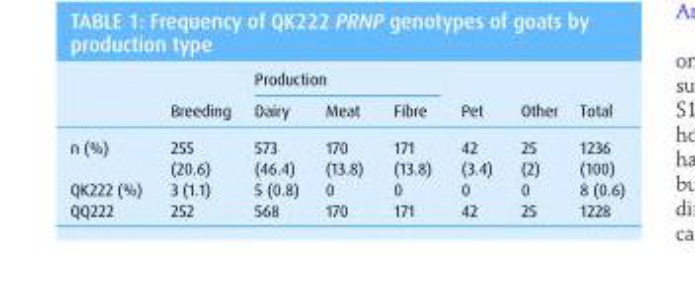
<table><thead><tr><td rowspan="2"></td><td rowspan="2">Breeding</td><td colspan="3">Production</td><td rowspan="2">Pet</td><td rowspan="2">Other</td><td rowspan="2">Total</td></tr><tr><td>Dairy</td><td>Meat</td><td>Fibre</td></tr></thead><tbody><tr><td>n (%)</td><td>255 (20.6)</td><td>573 (46.4)</td><td>170 (13.8)</td><td>171 (13.8)</td><td>42 (3.4)</td><td>25 (2)</td><td>1236 (100)</td></tr><tr><td>QK222 (%)</td><td>3 (1.1)</td><td>5 (0.8)</td><td>0</td><td>0</td><td>0</td><td>0</td><td>8 (0.6)</td></tr><tr><td>QQ222</td><td>252</td><td>568</td><td>170</td><td>171</td><td>42</td><td>25</td><td>1228</td></tr></tbody></table>